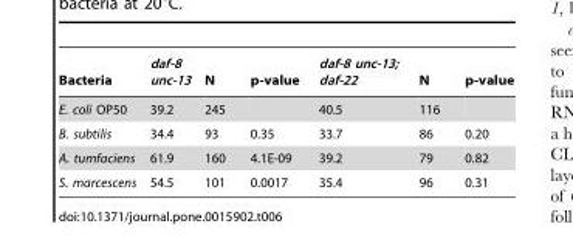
<table><thead><tr><td>Bacteria</td><td>daf-8 unc-13</td><td>N</td><td>p-value</td><td>daf-8 unc-13; daf-22</td><td>N</td><td>p-value</td></tr></thead><tbody><tr><td>E. coli OP50</td><td>39.2</td><td>245</td><td></td><td>40.5</td><td>116</td><td></td></tr><tr><td>B. subtilis</td><td>34.4</td><td>93</td><td>0.35</td><td>33.7</td><td>86</td><td>0.20</td></tr><tr><td>A. tumfaciens</td><td>61.9</td><td>160</td><td>4.1E-09</td><td>39.2</td><td>79</td><td>0.82</td></tr><tr><td>S. marcescens</td><td>54.5</td><td>101</td><td>0.0017</td><td>35.4</td><td>96</td><td>0.31</td></tr></tbody></table>